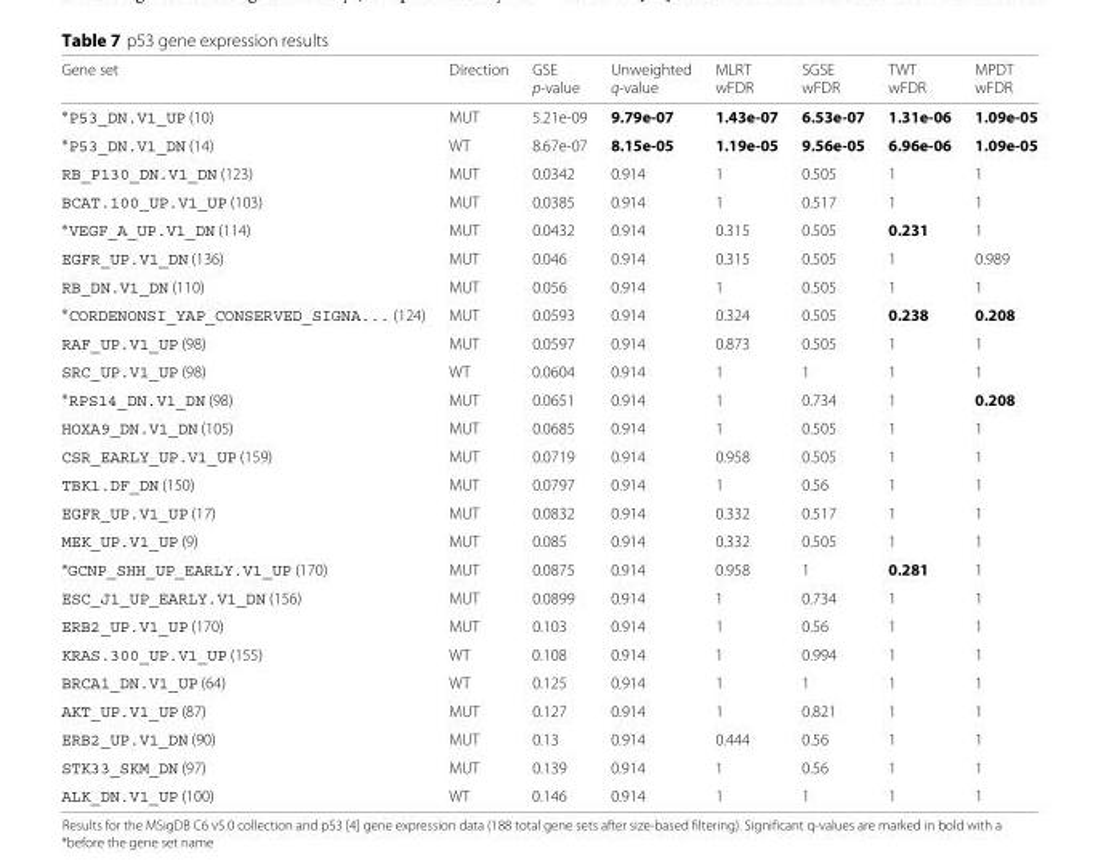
<table><thead><tr><td rowspan="2">Gene set</td><td rowspan="2">Direction</td><td rowspan="2">GSE p-value</td><td rowspan="2">Unweighted q-value</td><td rowspan="2">MLRT wFDR</td><td rowspan="2">SGSE wFDR</td><td rowspan="2">TWT wFDR</td><td rowspan="2">MPDT wFDR</td></tr><tr></tr></thead><tbody><tr><td>∗P53_DN.V1_UP (10)</td><td>MUT</td><td>5.21e-09</td><td>9.79e-07</td><td>1.43e-07</td><td>6.53e-07</td><td>1.31e-06</td><td>1.09e-05</td></tr><tr><td>∗P53_DN.V1_DN (14)</td><td>WT</td><td>8.67e-07</td><td>8.15e-05</td><td>1.19e-05</td><td>9.56e-05</td><td>6.96e-06</td><td>1.09e-05</td></tr><tr><td>RB_P130_DN.V1_DN (123)</td><td>MUT</td><td>0.0342</td><td>0.914</td><td>1</td><td>0.505</td><td>1</td><td>1</td></tr><tr><td>BCAT.100_UP.V1_UP (103)</td><td>MUT</td><td>0.0385</td><td>0.914</td><td>1</td><td>0.517</td><td>1</td><td>1</td></tr><tr><td>∗VEGF_A_UP.V1_DN (114)</td><td>MUT</td><td>0.0432</td><td>0.914</td><td>0.315</td><td>0.505</td><td>0.231</td><td>1</td></tr><tr><td>EGFR_UP.V1_DN (136)</td><td>MUT</td><td>0.046</td><td>0.914</td><td>0.315</td><td>0.505</td><td>1</td><td>0.989</td></tr><tr><td>RB_DN.V1_DN (110)</td><td>MUT</td><td>0.056</td><td>0.914</td><td>1</td><td>0.505</td><td>1</td><td>1</td></tr><tr><td>∗CORDENONSI_YAP_CONSERVED_SIGNA... (124)</td><td>MUT</td><td>0.0593</td><td>0.914</td><td>0.324</td><td>0.505</td><td>0.238</td><td>0.208</td></tr><tr><td>RAF_UP.V1_UP (98)</td><td>MUT</td><td>0.0597</td><td>0.914</td><td>0.873</td><td>0.505</td><td>1</td><td>1</td></tr><tr><td>SRC_UP.V1_UP (98)</td><td>WT</td><td>0.0604</td><td>0.914</td><td>1</td><td>1</td><td>1</td><td>1</td></tr><tr><td>∗RPS14_DN.V1_DN (98)</td><td>MUT</td><td>0.0651</td><td>0.914</td><td>1</td><td>0.734</td><td>1</td><td>0.208</td></tr><tr><td>HOXA9_DN.V1_DN (105)</td><td>MUT</td><td>0.0685</td><td>0.914</td><td>1</td><td>0.505</td><td>1</td><td>1</td></tr><tr><td>CSR_EARLY_UP.V1_UP (159)</td><td>MUT</td><td>0.0719</td><td>0.914</td><td>0.958</td><td>0.505</td><td>1</td><td>1</td></tr><tr><td>TBK1.DF_DN (150)</td><td>MUT</td><td>0.0797</td><td>0.914</td><td>1</td><td>0.56</td><td>1</td><td>1</td></tr><tr><td>EGFR_UP.V1_UP (17)</td><td>MUT</td><td>0.0832</td><td>0.914</td><td>0.332</td><td>0.517</td><td>1</td><td>1</td></tr><tr><td>MEK_UP.V1_UP (9)</td><td>MUT</td><td>0.085</td><td>0.914</td><td>0.332</td><td>0.505</td><td>1</td><td>1</td></tr><tr><td>*GCNP_SHH_UP_EARLY.V1_UP (170)</td><td>MUT</td><td>0.0875</td><td>0.914</td><td>0.958</td><td>1</td><td>0.281</td><td>1</td></tr><tr><td>ESC_J1_UP_EARLY.V1_DN (156)</td><td>MUT</td><td>0.0899</td><td>0.914</td><td>1</td><td>0.734</td><td>1</td><td>1</td></tr><tr><td>ERB2_UP.V1_UP (170)</td><td>MUT</td><td>0.103</td><td>0.914</td><td>1</td><td>0.56</td><td>1</td><td>1</td></tr><tr><td>KRAS.300_UP.V1_UP (155)</td><td>WT</td><td>0.108</td><td>0.914</td><td>1</td><td>0.994</td><td>1</td><td>1</td></tr><tr><td>BRCA1_DN.V1_UP (64)</td><td>WT</td><td>0.125</td><td>0.914</td><td>1</td><td>1</td><td>1</td><td>1</td></tr><tr><td>AKT_UP.V1_UP (87)</td><td>MUT</td><td>0.127</td><td>0.914</td><td>1</td><td>0.821</td><td>1</td><td>1</td></tr><tr><td>ERB2_UP.V1_DN (90)</td><td>MUT</td><td>0.13</td><td>0.914</td><td>0.444</td><td>0.56</td><td>1</td><td>1</td></tr><tr><td>STK33_SKM_DN (97)</td><td>MUT</td><td>0.139</td><td>0.914</td><td>1</td><td>0.56</td><td>1</td><td>1</td></tr><tr><td>ALK_DN.V1_UP (100)</td><td>WT</td><td>0.146</td><td>0.914</td><td>1</td><td>1</td><td>1</td><td>1</td></tr></tbody></table>